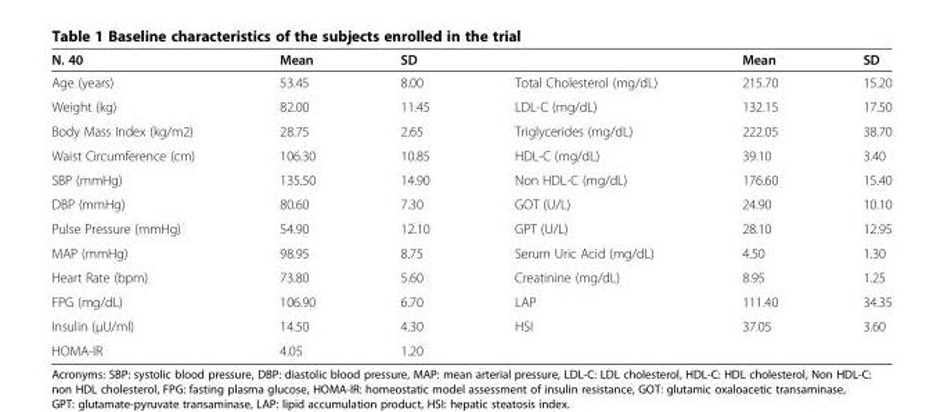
<table><thead><tr><td>N. 40</td><td>Mean</td><td>SD</td><td></td><td>Mean</td><td>SD</td></tr></thead><tbody><tr><td>Age (years)</td><td>53.45</td><td>8.00</td><td>Total Cholesterol (mg/dL)</td><td>215.70</td><td>15.20</td></tr><tr><td>Weight (kg)</td><td>82.00</td><td>11.45</td><td>LDL-C (mg/dL)</td><td>132.15</td><td>17.50</td></tr><tr><td>Body Mass Index (kg/m2)</td><td>28.75</td><td>2.65</td><td>Triglycerides (mg/dL)</td><td>222.05</td><td>38.70</td></tr><tr><td>Waist Circumference (cm)</td><td>106.30</td><td>10.85</td><td>HDL-C (mg/dL)</td><td>39.10</td><td>3.40</td></tr><tr><td>SBP (mmHg)</td><td>135.50</td><td>14.90</td><td>Non HDL-C (mg/dL)</td><td>176.60</td><td>15.40</td></tr><tr><td>DBP (mmHg)</td><td>80.60</td><td>7.30</td><td>GOT (U/L)</td><td>24.90</td><td>10.10</td></tr><tr><td>Pulse Pressure (mmHg)</td><td>54.90</td><td>12.10</td><td>GPT (U/L)</td><td>28.10</td><td>12.95</td></tr><tr><td>MAP (mmHg)</td><td>98.95</td><td>8.75</td><td>Serum Uric Acid (mg/dL)</td><td>4.50</td><td>1.30</td></tr><tr><td>Heart Rate (bpm)</td><td>73.80</td><td>5.60</td><td>Creatinine (mg/dL)</td><td>8.95</td><td>1.25</td></tr><tr><td>FPG (mg/dL)</td><td>106.90</td><td>6.70</td><td>LAP</td><td>111.40</td><td>34.35</td></tr><tr><td>Insulin (μU/ml)</td><td>14.50</td><td>4.30</td><td>HSI</td><td>37.05</td><td>3.60</td></tr><tr><td>HOMA-IR</td><td>4.05</td><td>1.20</td><td></td><td></td><td></td></tr></tbody></table>